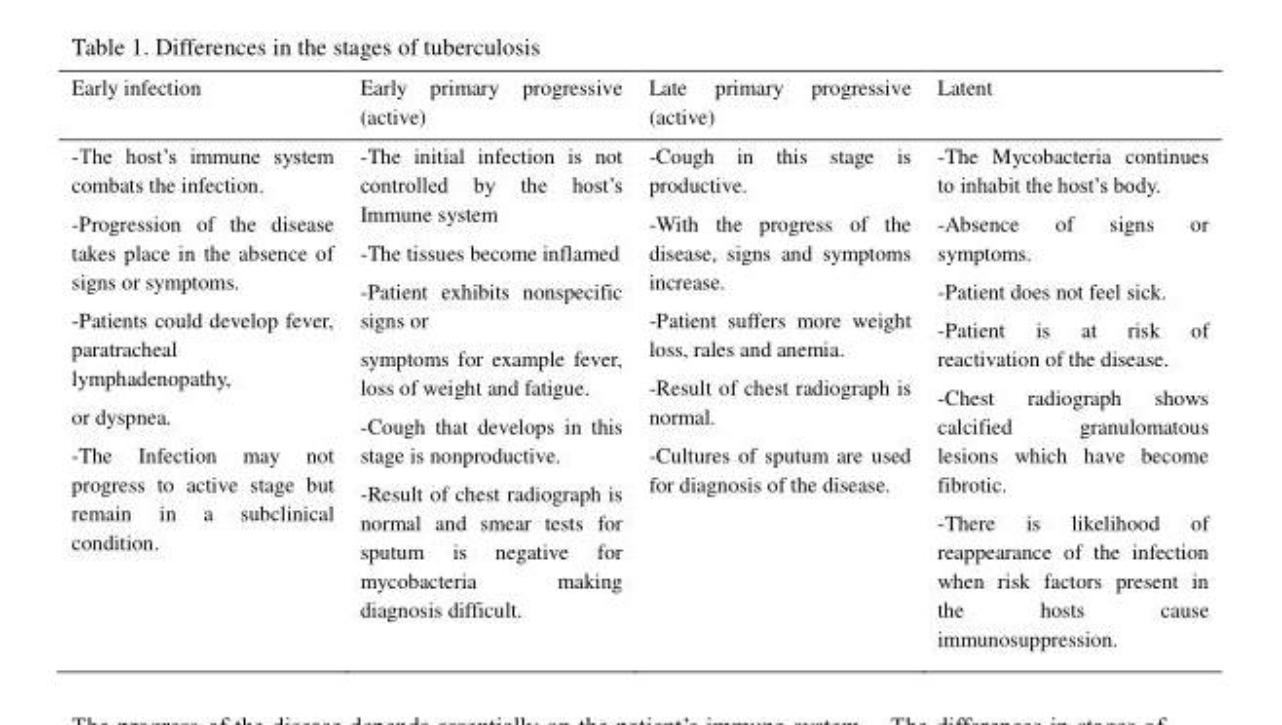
<table><thead><tr><td>Early infection</td><td>Early primary progressive (active)</td><td>Late primary progressive (active)</td><td>Latent</td></tr></thead><tbody><tr><td>-The host’s immune system combats the infection. -Progression of the disease takes place in the absence of signs or symptoms. -Patients could develop fever, paratracheal lymphadenopathy, or dyspnea. -The Infection may not progress to active stage but remain in a subclinical condition.</td><td>-The initial infection is not controlled by the host’s Immune system -The tissues become inflamed -Patient exhibits nonspecific signs or symptoms for example fever, loss of weight and fatigue. -Cough that develops in this stage is nonproductive. -Result of chest radiograph is normal and smear tests for sputum is negative for mycobacteria making diagnosis difficult.</td><td>-Cough in this stage is productive. -With the progress of the disease, signs and symptoms increase. -Patient suffers more weight loss, rales and anemia. -Result of chest radiograph is normal. -Cultures of sputum are used for diagnosis of the disease.</td><td>-The Mycobacteria continues to inhabit the host’s body. -Absence of signs or symptoms. -Patient does not feel sick. -Patient is at risk of reactivation of the disease. -Chest radiograph shows calcified granulomatous lesions which have become fibrotic. -There is likelihood of reappearance of the infection when risk factors present in the hosts cause immunosuppression.</td></tr></tbody></table>